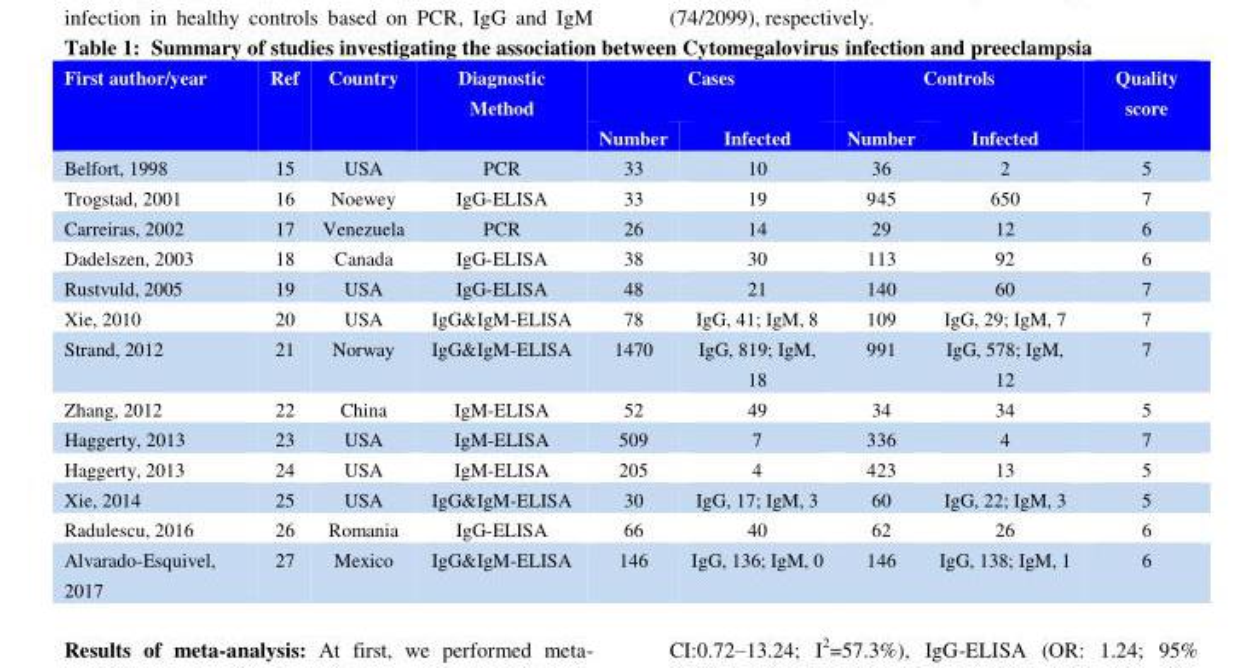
<table><thead><tr><td rowspan="2">First author/year</td><td rowspan="2">Ref</td><td rowspan="2">Country</td><td rowspan="2">Diagnostic Method</td><td colspan="2">Cases</td><td colspan="2">Controls</td><td rowspan="2">Quality score</td></tr><tr><td>Number</td><td>Infected</td><td>Number</td><td>Infected</td></tr></thead><tbody><tr><td>Belfort, 1998</td><td>15</td><td>USA</td><td>PCR</td><td>33</td><td>10</td><td>36</td><td>2</td><td>5</td></tr><tr><td>Trogstad, 2001</td><td>16</td><td>Noewey</td><td>IgG-ELISA</td><td>33</td><td>19</td><td>945</td><td>650</td><td>7</td></tr><tr><td>Carreiras, 2002</td><td>17</td><td>Venezuela</td><td>PCR</td><td>26</td><td>14</td><td>29</td><td>12</td><td>6</td></tr><tr><td>Dadelszen, 2003</td><td>18</td><td>Canada</td><td>IgG-ELISA</td><td>38</td><td>30</td><td>113</td><td>92</td><td>6</td></tr><tr><td>Rustvuld, 2005</td><td>19</td><td>USA</td><td>IgG-ELISA</td><td>48</td><td>21</td><td>140</td><td>60</td><td>7</td></tr><tr><td>Xie, 2010</td><td>20</td><td>USA</td><td>IgG&amp;IgM-ELISA</td><td>78</td><td>IgG, 41; IgM, 8</td><td>109</td><td>IgG, 29; IgM, 7</td><td>7</td></tr><tr><td>Strand, 2012</td><td>21</td><td>Norway</td><td>IgG&amp;IgM-ELISA</td><td>1470</td><td>IgG, 819; IgM, 18</td><td>991</td><td>IgG, 578; IgM, 12</td><td>7</td></tr><tr><td>Zhang, 2012</td><td>22</td><td>China</td><td>IgM-ELISA</td><td>52</td><td>49</td><td>34</td><td>34</td><td>5</td></tr><tr><td>Haggerty, 2013</td><td>23</td><td>USA</td><td>IgM-ELISA</td><td>509</td><td>7</td><td>336</td><td>4</td><td>7</td></tr><tr><td>Haggerty, 2013</td><td>24</td><td>USA</td><td>IgM-ELISA</td><td>205</td><td>4</td><td>423</td><td>13</td><td>5</td></tr><tr><td>Xie, 2014</td><td>25</td><td>USA</td><td>IgG&amp;IgM-ELISA</td><td>30</td><td>IgG, 17; IgM, 3</td><td>60</td><td>IgG, 22; IgM, 3</td><td>5</td></tr><tr><td>Radulescu, 2016</td><td>26</td><td>Romania</td><td>IgG-ELISA</td><td>66</td><td>40</td><td>62</td><td>26</td><td>6</td></tr><tr><td>Alvarado-Esquivel, 2017</td><td>27</td><td>Mexico</td><td>IgG&amp;IgM-ELISA</td><td>146</td><td>IgG, 136; IgM, 0</td><td>146</td><td>IgG, 138; IgM, 1</td><td>6</td></tr></tbody></table>